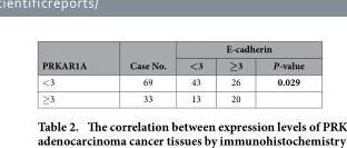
<table><thead><tr><td rowspan="2">PRKAR1A</td><td rowspan="2">Case No.</td><td colspan="3">E-cadherin</td></tr><tr><td>&lt;3</td><td>≥3</td><td>P-value</td></tr></thead><tbody><tr><td>&lt; 3</td><td>69</td><td>43</td><td>26</td><td>0.029</td></tr><tr><td>≥ 3</td><td>33</td><td>13</td><td>20</td><td></td></tr></tbody></table>